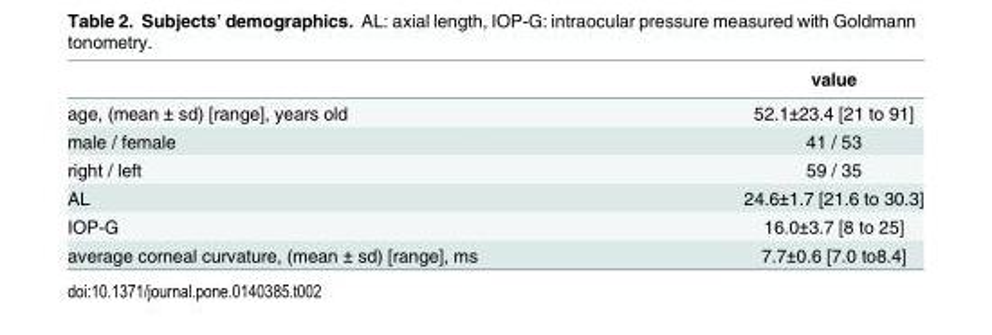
<table><thead><tr><td></td><td>value</td></tr></thead><tbody><tr><td>age, (mean ± sd) [range], years old</td><td>52.1±23.4 [21 to 91]</td></tr><tr><td>male / female</td><td>41 / 53</td></tr><tr><td>right / left</td><td>59 / 35</td></tr><tr><td>AL</td><td>24.6±1.7 [21.6 to 30.3]</td></tr><tr><td>IOP-G</td><td>16.0±3.7 [8 to 25]</td></tr><tr><td>average corneal curvature, (mean ± sd) [range], ms</td><td>7.7±0.6 [7.0 to8.4]</td></tr></tbody></table>